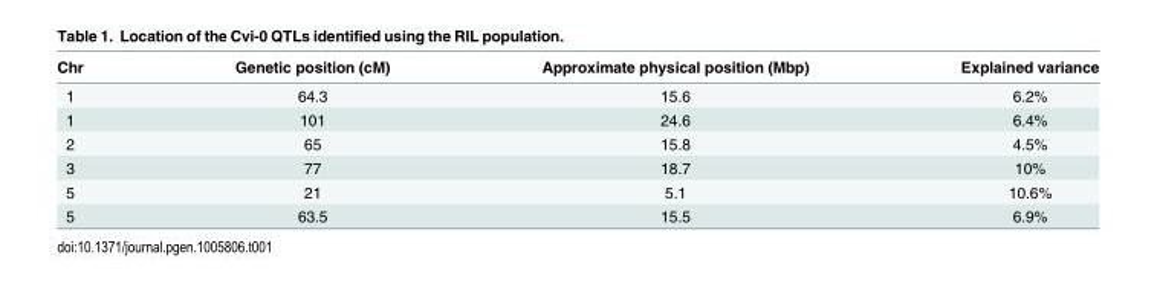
<table><thead><tr><td>Chr</td><td>Genetic position (cM)</td><td>Approximate physical position (Mbp)</td><td>Explained variance</td></tr></thead><tbody><tr><td>1</td><td>64.3</td><td>15.6</td><td>6.2%</td></tr><tr><td>1</td><td>101</td><td>24.6</td><td>6.4%</td></tr><tr><td>2</td><td>65</td><td>15.8</td><td>4.5%</td></tr><tr><td>3</td><td>77</td><td>18.7</td><td>10%</td></tr><tr><td>5</td><td>21</td><td>5.1</td><td>10.6%</td></tr><tr><td>5</td><td>63.5</td><td>15.5</td><td>6.9%</td></tr></tbody></table>